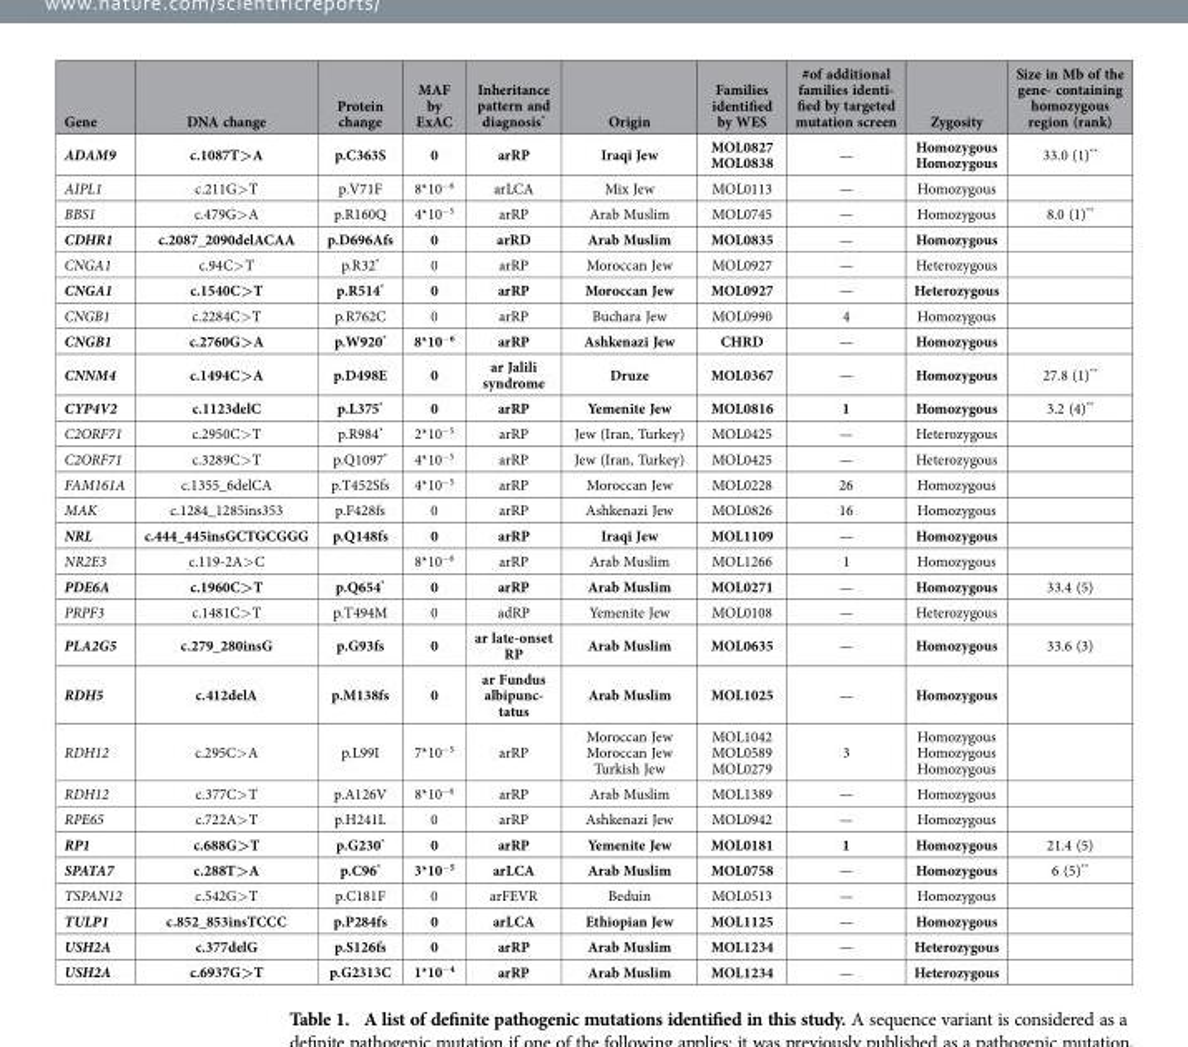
<table><thead><tr><td>Gene</td><td>DNA change</td><td>Protein change</td><td>MAF by ExAC</td><td>Inheritance pattern and diagnosis*</td><td>Origin</td><td>Families identified by WES</td><td>#of additional families identi- fied by targeted mutation screen</td><td>Zygosity</td><td>Size in Mb of the gene- containing homozygous region (rank)</td></tr></thead><tbody><tr><td>ADAM9</td><td>c.1087T&gt;A</td><td>p.C363S</td><td>0</td><td>arRP</td><td>Iraqi Jew</td><td>MOL0827 MOL0838</td><td>—</td><td>Homozygous Homozygous</td><td>33.0 (1)**</td></tr><tr><td>AIPL1</td><td>c.211G&gt; T</td><td>p.V71F</td><td>8*10<sup>−6</sup></td><td>arLCA</td><td>Mix Jew</td><td>MOL0113</td><td>—</td><td>Homozygous</td><td></td></tr><tr><td>BBS1</td><td>c.479G&gt; A</td><td>p.R160Q</td><td>4*10<sup>−5</sup></td><td>arRP</td><td>Arab Muslim</td><td>MOL0745</td><td>—</td><td>Homozygous</td><td>8.0 (1)**</td></tr><tr><td>CDHR1</td><td>c.2087_2090delACAA</td><td>p.D696Afs</td><td>0</td><td>arRD</td><td>Arab Muslim</td><td>MOL0835</td><td>—</td><td>Homozygous</td><td></td></tr><tr><td>CNGA1</td><td>c.94C&gt; T</td><td>p.R32*</td><td>0</td><td>arRP</td><td>Moroccan Jew</td><td>MOL0927</td><td>—</td><td>Heterozygous</td><td></td></tr><tr><td>CNGA1</td><td>c.1540C&gt;T</td><td>p.R514*</td><td>0</td><td>arRP</td><td>Moroccan Jew</td><td>MOL0927</td><td>—</td><td>Heterozygous</td><td></td></tr><tr><td>CNGB1</td><td>c.2284C&gt; T</td><td>p.R762C</td><td>0</td><td>arRP</td><td>Buchara Jew</td><td>MOL0990</td><td>4</td><td>Homozygous</td><td></td></tr><tr><td>CNGB1</td><td>c.2760G&gt;A</td><td>p.W920*</td><td>8*10<sup>−6</sup></td><td>arRP</td><td>Ashkenazi Jew</td><td>CHRD</td><td>—</td><td>Homozygous</td><td></td></tr><tr><td>CNNM4</td><td>c.1494C&gt;A</td><td>p.D498E</td><td>0</td><td>ar Jalili syndrome</td><td>Druze</td><td>MOL0367</td><td>—</td><td>Homozygous</td><td>27.8 (1)**</td></tr><tr><td>CYP4V2</td><td>c.1123delC</td><td>p.L375*</td><td>0</td><td>arRP</td><td>Yemenite Jew</td><td>MOL0816</td><td>1</td><td>Homozygous</td><td>3.2 (4)**</td></tr><tr><td>C2ORF71</td><td>c.2950C&gt; T</td><td>p.R984*</td><td>2*10<sup>−5</sup></td><td>arRP</td><td>Jew (Iran, Turkey)</td><td>MOL0425</td><td>—</td><td>Heterozygous</td><td></td></tr><tr><td>C2ORF71</td><td>c.3289C&gt; T</td><td>p.Q1097*</td><td>4*10<sup>−5</sup></td><td>arRP</td><td>Jew (Iran, Turkey)</td><td>MOL0425</td><td>—</td><td>Heterozygous</td><td></td></tr><tr><td>FAM161A</td><td>c.1355_6delCA</td><td>p.T452Sfs</td><td>4*10<sup>−5</sup></td><td>arRP</td><td>Moroccan Jew</td><td>MOL0228</td><td>26</td><td>Homozygous</td><td></td></tr><tr><td>MAK</td><td>c.1284_1285ins353</td><td>p.F428fs</td><td>0</td><td>arRP</td><td>Ashkenazi Jew</td><td>MOL0826</td><td>16</td><td>Homozygous</td><td></td></tr><tr><td>NRL</td><td>c.444_445insGCTGCGGG</td><td>p.Q148fs</td><td>0</td><td>arRP</td><td>Iraqi Jew</td><td>MOL1109</td><td>—</td><td>Homozygous</td><td></td></tr><tr><td>NR2E3</td><td>c.119-2A&gt; C</td><td></td><td>8*10<sup>−6</sup></td><td>arRP</td><td>Arab Muslim</td><td>MOL1266</td><td>1</td><td>Homozygous</td><td></td></tr><tr><td>PDE6A</td><td>c.1960C&gt;T</td><td>p.Q654*</td><td>0</td><td>arRP</td><td>Arab Muslim</td><td>MOL0271</td><td>—</td><td>Homozygous</td><td>33.4 (5)</td></tr><tr><td>PRPF3</td><td>c.1481C&gt; T</td><td>p.T494M</td><td>0</td><td>adRP</td><td>Yemenite Jew</td><td>MOL0108</td><td>—</td><td>Heterozygous</td><td></td></tr><tr><td>PLA2G5</td><td>c.279_280insG</td><td>p.G93fs</td><td>0</td><td>ar late-onset RP</td><td>Arab Muslim</td><td>MOL0635</td><td>—</td><td>Homozygous</td><td>33.6 (3)</td></tr><tr><td>RDH5</td><td>c.412delA</td><td>p.M138fs</td><td>0</td><td>ar Fundus albipunc- tatus</td><td>Arab Muslim</td><td>MOL1025</td><td>—</td><td>Homozygous</td><td></td></tr><tr><td>RDH12</td><td>c.295C&gt; A</td><td>p.L99I</td><td>7*10<sup>−5</sup></td><td>arRP</td><td>Moroccan Jew Moroccan Jew Turkish Jew</td><td>MOL1042 MOL0589 MOL0279</td><td>3</td><td>Homozygous Homozygous Homozygous</td><td></td></tr><tr><td>RDH12</td><td>c.377C&gt; T</td><td>p.A126V</td><td>8*10<sup>−6</sup></td><td>arRP</td><td>Arab Muslim</td><td>MOL1389</td><td>—</td><td>Homozygous</td><td></td></tr><tr><td>RPE65</td><td>c.722A&gt; T</td><td>p.H241L</td><td>0</td><td>arRP</td><td>Ashkenazi Jew</td><td>MOL0942</td><td>—</td><td>Homozygous</td><td></td></tr><tr><td>RP1</td><td>c.688G&gt;T</td><td>p.G230*</td><td>0</td><td>arRP</td><td>Yemenite Jew</td><td>MOL0181</td><td>1</td><td>Homozygous</td><td>21.4 (5)</td></tr><tr><td>SPATA7</td><td>c.288T&gt;A</td><td>p.C96*</td><td>3*10<sup>−5</sup></td><td>arLCA</td><td>Arab Muslim</td><td>MOL0758</td><td>—</td><td>Homozygous</td><td>6 (5)**</td></tr><tr><td>TSPAN12</td><td>c.542G&gt; T</td><td>p.C181F</td><td>0</td><td>arFEVR</td><td>Beduin</td><td>MOL0513</td><td>—</td><td>Homozygous</td><td></td></tr><tr><td>TULP1</td><td>c.852_853insTCCC</td><td>p.P284fs</td><td>0</td><td>arLCA</td><td>Ethiopian Jew</td><td>MOL1125</td><td>—</td><td>Homozygous</td><td></td></tr><tr><td>USH2A</td><td>c.377delG</td><td>p.S126fs</td><td>0</td><td>arRP</td><td>Arab Muslim</td><td>MOL1234</td><td>—</td><td>Heterozygous</td><td></td></tr><tr><td>USH2A</td><td>c.6937G&gt;T</td><td>p.G2313C</td><td>1*10<sup>−4</sup></td><td>arRP</td><td>Arab Muslim</td><td>MOL1234</td><td>—</td><td>Heterozygous</td><td></td></tr></tbody></table>